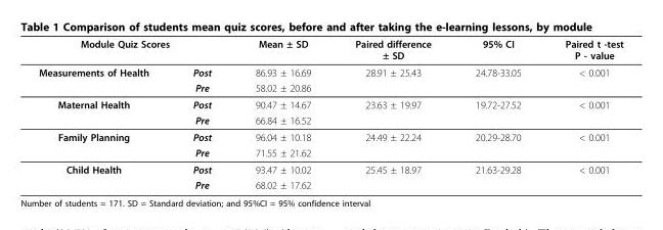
<table><thead><tr><td colspan="2">Module Quiz Scores</td><td rowspan="2">Mean ± SD 86.93 ± 16.69</td><td rowspan="2">Paired difference ± SD 28.91 ± 25.43</td><td rowspan="2">95% CI 24.78-33.05</td><td rowspan="2">Paired t -test P - value &lt; 0.001</td></tr><tr><td>Measurements of Health</td><td>Post</td></tr></thead><tbody><tr><td></td><td>Pre</td><td>58.02 ± 20.86</td><td></td><td></td><td></td></tr><tr><td rowspan="2">Maternal Health</td><td>Post</td><td>90.47 ± 14.67</td><td>23.63 ± 19.97</td><td>19.72-27.52</td><td>&lt; 0.001</td></tr><tr><td>Pre</td><td>66.84 ± 16.52</td><td></td><td></td><td></td></tr><tr><td rowspan="2">Family Planning</td><td>Post</td><td>96.04 ± 10.18</td><td>24.49 ± 22.24</td><td>20.29-28.70</td><td>&lt; 0.001</td></tr><tr><td>Pre</td><td>71.55 ± 21.62</td><td></td><td></td><td></td></tr><tr><td rowspan="2">Child Health</td><td>Post</td><td>93.47 ± 10.02</td><td>25.45 ± 18.97</td><td>21.63-29.28</td><td>&lt; 0.001</td></tr><tr><td>Pre</td><td>68.02 ± 17.62</td><td></td><td></td><td></td></tr></tbody></table>